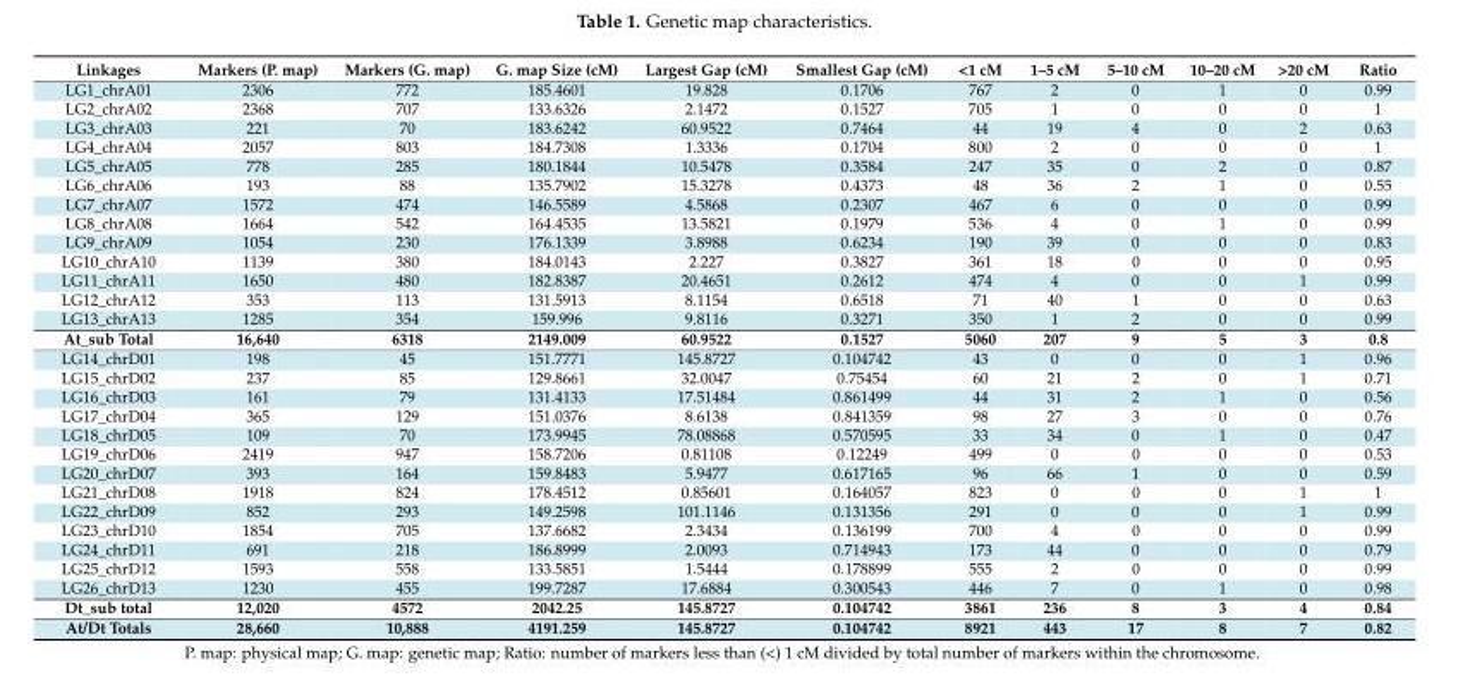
<table><thead><tr><td>Linkages</td><td>Markers (P. map)</td><td>Markers (G. map)</td><td>G. map Size (cM)</td><td>Largest Gap (cM)</td><td>Smallest Gap (cM)</td><td>&lt;1 cM</td><td>1–5 cM</td><td>5–10 cM</td><td>10–20 cM</td><td>&gt;20 cM</td><td>Ratio</td></tr></thead><tbody><tr><td>LG1_chrA01</td><td>2306</td><td>772</td><td>185.4601</td><td>19.828</td><td>0.1706</td><td>767</td><td>2</td><td>0</td><td>1</td><td>0</td><td>0.99</td></tr><tr><td>LG2_chrA02</td><td>2368</td><td>707</td><td>133.6326</td><td>2.1472</td><td>0.1527</td><td>705</td><td>1</td><td>0</td><td>0</td><td>0</td><td>1</td></tr><tr><td>LG3_chrA03</td><td>221</td><td>70</td><td>183.6242</td><td>60.9522</td><td>0.7464</td><td>44</td><td>19</td><td>4</td><td>0</td><td>2</td><td>0.63</td></tr><tr><td>LG4_chrA04</td><td>2057</td><td>803</td><td>184.7308</td><td>1.3336</td><td>0.1704</td><td>800</td><td>2</td><td>0</td><td>0</td><td>0</td><td>1</td></tr><tr><td>LG5_chrA05</td><td>778</td><td>285</td><td>180.1844</td><td>10.5478</td><td>0.3584</td><td>247</td><td>35</td><td>0</td><td>2</td><td>0</td><td>0.87</td></tr><tr><td>LG6_chrA06</td><td>193</td><td>88</td><td>135.7902</td><td>15.3278</td><td>0.4373</td><td>48</td><td>36</td><td>2</td><td>1</td><td>0</td><td>0.55</td></tr><tr><td>LG7_chrA07</td><td>1572</td><td>474</td><td>146.5589</td><td>4.5868</td><td>0.2307</td><td>467</td><td>6</td><td>0</td><td>0</td><td>0</td><td>0.99</td></tr><tr><td>LG8_chrA08</td><td>1664</td><td>542</td><td>164.4535</td><td>13.5821</td><td>0.1979</td><td>536</td><td>4</td><td>0</td><td>1</td><td>0</td><td>0.99</td></tr><tr><td>LG9_chrA09</td><td>1054</td><td>230</td><td>176.1339</td><td>3.8988</td><td>0.6234</td><td>190</td><td>39</td><td>0</td><td>0</td><td>0</td><td>0.83</td></tr><tr><td>LG10_chrA10</td><td>1139</td><td>380</td><td>184.0143</td><td>2.227</td><td>0.3827</td><td>361</td><td>18</td><td>0</td><td>0</td><td>0</td><td>0.95</td></tr><tr><td>LG11_chrA11</td><td>1650</td><td>480</td><td>182.8387</td><td>20.4651</td><td>0.2612</td><td>474</td><td>4</td><td>0</td><td>0</td><td>1</td><td>0.99</td></tr><tr><td>LG12_chrA12</td><td>353</td><td>113</td><td>131.5913</td><td>8.1154</td><td>0.6518</td><td>71</td><td>40</td><td>1</td><td>0</td><td>0</td><td>0.63</td></tr><tr><td>LG13_chrA13</td><td>1285</td><td>354</td><td>159.996</td><td>9.8116</td><td>0.3271</td><td>350</td><td>1</td><td>2</td><td>0</td><td>0</td><td>0.99</td></tr><tr><td>At_sub Total</td><td>16,640</td><td>6318</td><td>2149.009</td><td>60.9522</td><td>0.1527</td><td>5060</td><td>207</td><td>9</td><td>5</td><td>3</td><td>0.8</td></tr><tr><td>LG14_chrD01</td><td>198</td><td>45</td><td>151.7771</td><td>145.8727</td><td>0.104742</td><td>43</td><td>0</td><td>0</td><td>0</td><td>1</td><td>0.96</td></tr><tr><td>LG15_chrD02</td><td>237</td><td>85</td><td>129.8661</td><td>32.0047</td><td>0.75454</td><td>60</td><td>21</td><td>2</td><td>0</td><td>1</td><td>0.71</td></tr><tr><td>LG16_chrD03</td><td>161</td><td>79</td><td>131.4133</td><td>17.51484</td><td>0.861499</td><td>44</td><td>31</td><td>2</td><td>1</td><td>0</td><td>0.56</td></tr><tr><td>LG17_chrD04</td><td>365</td><td>129</td><td>151.0376</td><td>8.6138</td><td>0.841359</td><td>98</td><td>27</td><td>3</td><td>0</td><td>0</td><td>0.76</td></tr><tr><td>LG18_chrD05</td><td>109</td><td>70</td><td>173.9945</td><td>78.08868</td><td>0.570595</td><td>33</td><td>34</td><td>0</td><td>1</td><td>0</td><td>0.47</td></tr><tr><td>LG19_chrD06</td><td>2419</td><td>947</td><td>158.7206</td><td>0.81108</td><td>0.12249</td><td>499</td><td>0</td><td>0</td><td>0</td><td>0</td><td>0.53</td></tr><tr><td>LG20_chrD07</td><td>393</td><td>164</td><td>159.8483</td><td>5.9477</td><td>0.617165</td><td>96</td><td>66</td><td>1</td><td>0</td><td>0</td><td>0.59</td></tr><tr><td>LG21_chrD08</td><td>1918</td><td>824</td><td>178.4512</td><td>0.85601</td><td>0.164057</td><td>823</td><td>0</td><td>0</td><td>0</td><td>1</td><td>1</td></tr><tr><td>LG22_chrD09</td><td>852</td><td>293</td><td>149.2598</td><td>101.1146</td><td>0.131356</td><td>291</td><td>0</td><td>0</td><td>0</td><td>1</td><td>0.99</td></tr><tr><td>LG23_chrD10</td><td>1854</td><td>705</td><td>137.6682</td><td>2.3434</td><td>0.136199</td><td>700</td><td>4</td><td>0</td><td>0</td><td>0</td><td>0.99</td></tr><tr><td>LG24_chrD11</td><td>691</td><td>218</td><td>186.8999</td><td>2.0093</td><td>0.714943</td><td>173</td><td>44</td><td>0</td><td>0</td><td>0</td><td>0.79</td></tr><tr><td>LG25_chrD12</td><td>1593</td><td>558</td><td>133.5851</td><td>1.5444</td><td>0.178899</td><td>555</td><td>2</td><td>0</td><td>0</td><td>0</td><td>0.99</td></tr><tr><td>LG26_chrD13</td><td>1230</td><td>455</td><td>199.7287</td><td>17.6884</td><td>0.300543</td><td>446</td><td>7</td><td>0</td><td>1</td><td>0</td><td>0.98</td></tr><tr><td>Dt_sub total</td><td>12,020</td><td>4572</td><td>2042.25</td><td>145.8727</td><td>0.104742</td><td>3861</td><td>236</td><td>8</td><td>3</td><td>4</td><td>0.84</td></tr><tr><td>At/Dt Totals</td><td>28,660</td><td>10,888</td><td>4191.259</td><td>145.8727</td><td>0.104742</td><td>8921</td><td>443</td><td>17</td><td>8</td><td>7</td><td>0.82</td></tr></tbody></table>